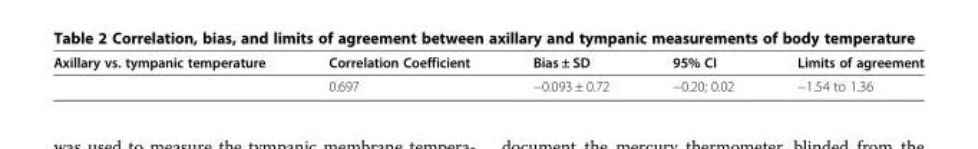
<table><thead><tr><td>Axillary vs. tympanic temperature</td><td>Correlation Coefficient</td><td>Bias ± SD</td><td>95% CI</td><td>Limits of agreement</td></tr></thead><tbody><tr><td></td><td>0.697</td><td>−0.093 ± 0.72</td><td>−0.20; 0.02</td><td>−1.54 to 1.36</td></tr></tbody></table>